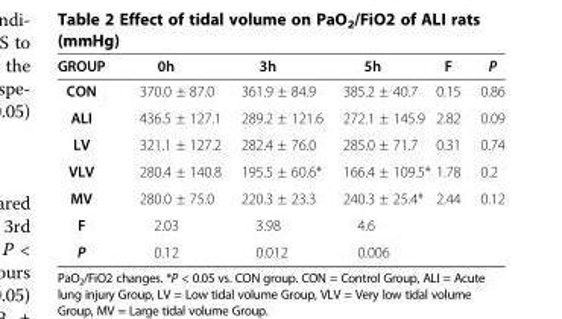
<table><thead><tr><td>GROUP</td><td>0h</td><td>3h</td><td>5h</td><td>F</td><td>P</td></tr></thead><tbody><tr><td>CON</td><td>370.0 ± 87.0</td><td>361.9 ± 84.9</td><td>385.2 ± 40.7</td><td>0.15</td><td>0.86</td></tr><tr><td>ALI</td><td>436.5 ± 127.1</td><td>289.2 ± 121.6</td><td>272.1 ± 145.9</td><td>2.82</td><td>0.09</td></tr><tr><td>LV</td><td>321.1 ± 127.2</td><td>282.4 ± 76.0</td><td>285.0 ± 71.7</td><td>0.31</td><td>0.74</td></tr><tr><td>VLV</td><td>280.4 ± 140.8</td><td>195.5 ± 60.6*</td><td>166.4 ± 109.5*</td><td>1.78</td><td>0.2</td></tr><tr><td>MV</td><td>280.0 ± 75.0</td><td>220.3 ± 23.3</td><td>240.3 ± 25.4*</td><td>2.44</td><td>0.12</td></tr><tr><td>F</td><td>2.03</td><td>3.98</td><td>4.6</td><td></td><td></td></tr><tr><td>P</td><td>0.12</td><td>0.012</td><td>0.006</td><td></td><td></td></tr></tbody></table>